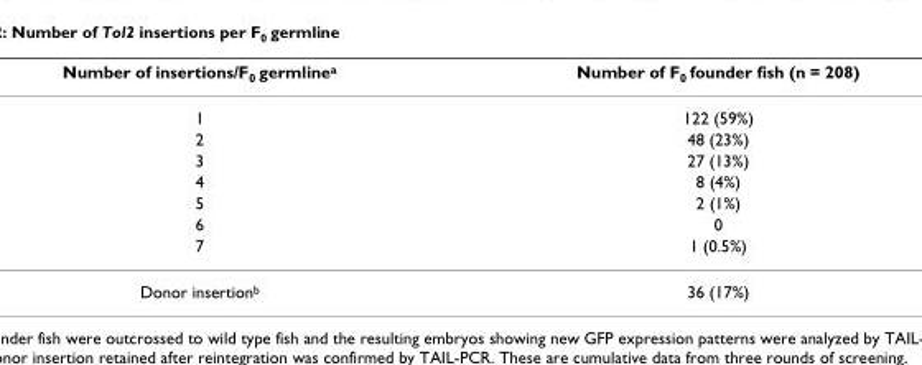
<table><thead><tr><td>Number of insertions/F<sub>0</sub> germline<sup>a</sup></td><td>Number of F<sub>0</sub> founder fish (n = 208)</td></tr></thead><tbody><tr><td>1</td><td>122 (59%)</td></tr><tr><td>2</td><td>48 (23%)</td></tr><tr><td>3</td><td>27 (13%)</td></tr><tr><td>4</td><td>8 (4%)</td></tr><tr><td>5</td><td>2 (1%)</td></tr><tr><td>6</td><td>0</td></tr><tr><td>7</td><td>1 (0.5%)</td></tr><tr><td>Donor insertion<sup>b</sup></td><td>36 (17%)</td></tr></tbody></table>